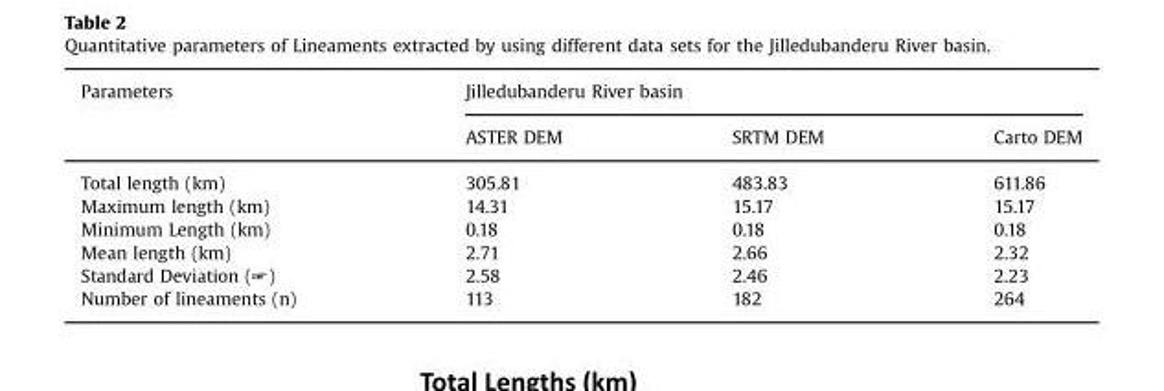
<table><thead><tr><td rowspan="2">Parameters</td><td colspan="3">Jilledubanderu River basin</td></tr><tr><td>ASTER DEM</td><td>SRTM DEM</td><td>Carto DEM</td></tr></thead><tbody><tr><td>Total length (km)</td><td>305.81</td><td>483.83</td><td>611.86</td></tr><tr><td>Maximum length (km)</td><td>14.31</td><td>15.17</td><td>15.17</td></tr><tr><td>Minimum Length (km)</td><td>0.18</td><td>0.18</td><td>0.18</td></tr><tr><td>Mean length (km)</td><td>2.71</td><td>2.66</td><td>2.32</td></tr><tr><td>Standard Deviation (☞)</td><td>2.58</td><td>2.46</td><td>2.23</td></tr><tr><td>Number of lineaments (n)</td><td>113</td><td>182</td><td>264</td></tr></tbody></table>